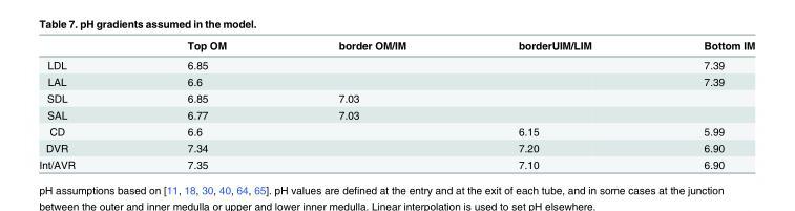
<table><thead><tr><td></td><td>Top OM</td><td>border OM/IM</td><td>borderUIM/LIM</td><td>Bottom IM</td></tr></thead><tbody><tr><td>LDL</td><td>6.85</td><td></td><td></td><td>7.39</td></tr><tr><td>LAL</td><td>6.6</td><td></td><td></td><td>7.39</td></tr><tr><td>SDL</td><td>6.85</td><td>7.03</td><td></td><td></td></tr><tr><td>SAL</td><td>6.77</td><td>7.03</td><td></td><td></td></tr><tr><td>CD</td><td>6.6</td><td></td><td>6.15</td><td>5.99</td></tr><tr><td>DVR</td><td>7.34</td><td></td><td>7.20</td><td>6.90</td></tr><tr><td>Int/AVR</td><td>7.35</td><td></td><td>7.10</td><td>6.90</td></tr></tbody></table>